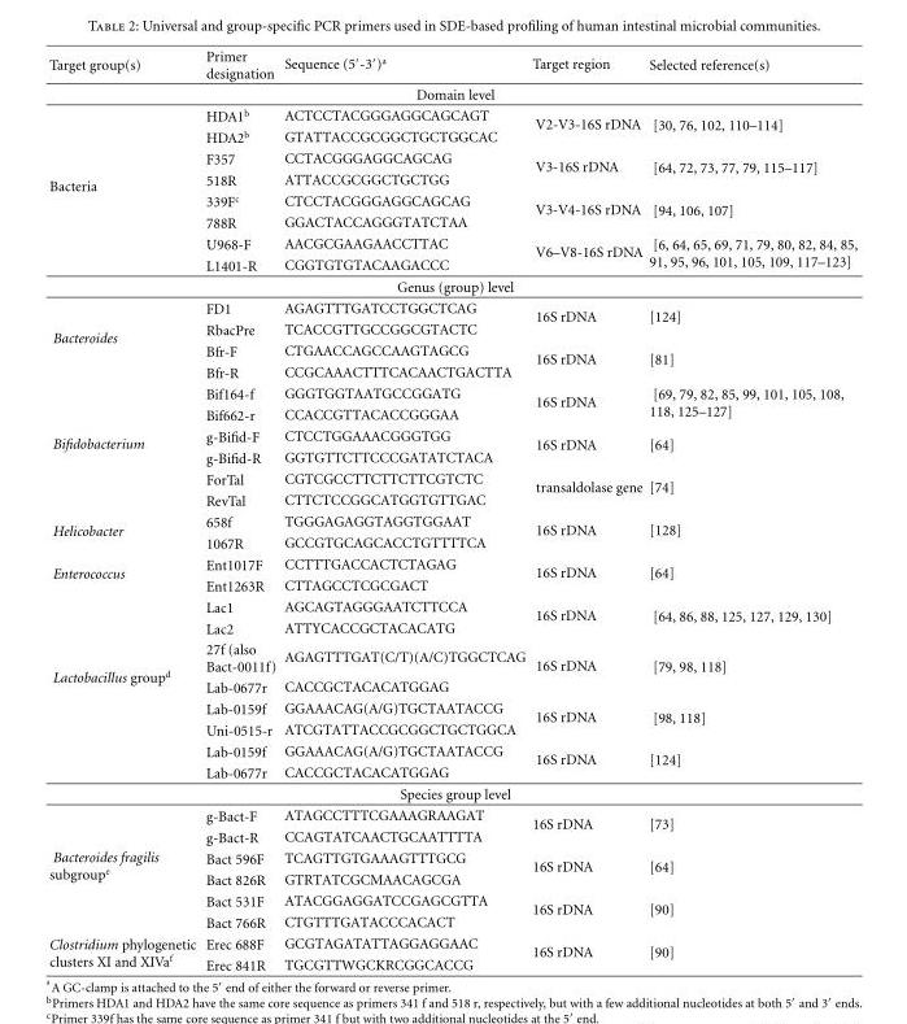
<table><thead><tr><td>Target group(s)</td><td>Primer designation</td><td>Sequence (5′-3′)<sup>a</sup></td><td>Target region</td><td>Selected reference(s)</td></tr></thead><tbody><tr><td colspan="5">Domain level</td></tr><tr><td rowspan="8">Bacteria</td><td>HDA1<sup>b</sup></td><td>ACTCCTACGGGAGGCAGCAGT</td><td rowspan="2">V2-V3-16S rDNA</td><td rowspan="2">[30, 76, 102, 110–114]</td></tr><tr><td>HDA2<sup>b</sup></td><td>GTATTACCGCGGCTGCTGGCAC</td></tr><tr><td>F357</td><td>CCTACGGGAGGCAGCAG</td><td rowspan="2">V3-16S rDNA</td><td rowspan="2">[64, 72, 73, 77, 79, 115–117]</td></tr><tr><td>518R</td><td>ATTACCGCGGCTGCTGG</td></tr><tr><td>339F<sup>c</sup></td><td>CTCCTACGGGAGGCAGCAG</td><td rowspan="2">V3-V4-16S rDNA</td><td rowspan="2">[94, 106, 107]</td></tr><tr><td>788R</td><td>GGACTACCAGGGTATCTAA</td></tr><tr><td>U968-F</td><td>AACGCGAAGAACCTTAC</td><td rowspan="2">V6–V8-16S rDNA</td><td rowspan="2">[6, 64, 65, 69, 71, 79, 80, 82, 84, 85, 91, 95, 96, 101, 105, 109, 117–123]</td></tr><tr><td>L1401-R</td><td>CGGTGTGTACAAGACCC</td></tr><tr><td colspan="5">Genus (group) level</td></tr><tr><td rowspan="4">Bacteroides</td><td>FD1</td><td>AGAGTTTGATCCTGGCTCAG</td><td rowspan="2">16S rDNA</td><td rowspan="2">[124]</td></tr><tr><td>RbacPre</td><td>TCACCGTTGCCGGCGTACTC</td></tr><tr><td>Bfr-F</td><td>CTGAACCAGCCAAGTAGCG</td><td rowspan="2">16S rDNA</td><td rowspan="2">[81]</td></tr><tr><td>Bfr-R</td><td>CCGCAAACTTTCACAACTGACTTA</td></tr><tr><td rowspan="6">Bifidobacterium</td><td>Bif164-f</td><td>GGGTGGTAATGCCGGATG</td><td rowspan="2">16S rDNA</td><td rowspan="2">[69, 79, 82, 85, 99, 101, 105, 108, 118, 125–127]</td></tr><tr><td>Bif662-r</td><td>CCACCGTTACACCGGGAA</td></tr><tr><td>g-Bifid-F</td><td>CTCCTGGAAACGGGTGG</td><td rowspan="2">16S rDNA</td><td rowspan="2">[64]</td></tr><tr><td>g-Bifid-R</td><td>GGTGTTCTTCCCGATATCTACA</td></tr><tr><td>ForTal</td><td>CGTCGCCTTCTTCTTCGTCTC</td><td rowspan="2">transaldolase gene</td><td rowspan="2">[74]</td></tr><tr><td>RevTal</td><td>CTTCTCCGGCATGGTGTTGAC</td></tr><tr><td rowspan="2">Helicobacter</td><td>658f</td><td>TGGGAGAGGTAGGTGGAAT</td><td rowspan="2">16S rDNA</td><td rowspan="2">[128]</td></tr><tr><td>1067R</td><td>GCCGTGCAGCACCTGTTTTCA</td></tr><tr><td rowspan="2">Enterococcus</td><td>Ent1017F</td><td>CCTTTGACCACTCTAGAG</td><td rowspan="2">16S rDNA</td><td rowspan="2">[64]</td></tr><tr><td>Ent1263R</td><td>CTTAGCCTCGCGACT</td></tr><tr><td rowspan="8">Lactobacillus group<sup>d</sup></td><td>Lac1</td><td>AGCAGTAGGGAATCTTCCA</td><td rowspan="2">16S rDNA</td><td rowspan="2">[64, 86, 88, 125, 127, 129, 130]</td></tr><tr><td>Lac2</td><td>ATTYCACCGCTACACATG</td></tr><tr><td>27f (also Bact-0011f)</td><td>AGAGTTTGAT(C/T)(A/C)TGGCTCAG</td><td rowspan="2">16S rDNA</td><td rowspan="2">[79, 98, 118]</td></tr><tr><td>Lab-0677r</td><td>CACCGCTACACATGGAG</td></tr><tr><td>Lab-0159f</td><td>GGAAACAG(A/G)TGCTAATACCG</td><td rowspan="2">16S rDNA</td><td rowspan="2">[98, 118]</td></tr><tr><td>Uni-0515-r</td><td>ATCGTATTACCGCGGCTGCTGGCA</td></tr><tr><td>Lab-0159f</td><td>GGAAACAG(A/G)TGCTAATACCG</td><td rowspan="2">16S rDNA</td><td rowspan="2">[124]</td></tr><tr><td>Lab-0677r</td><td>CACCGCTACACATGGAG</td></tr><tr><td colspan="5">Species group level</td></tr><tr><td rowspan="6">Bacteroides fragilis subgroup<sup>e</sup></td><td>g-Bact-F</td><td>ATAGCCTTTCGAAAGRAAGAT</td><td rowspan="2">16S rDNA</td><td rowspan="2">[73]</td></tr><tr><td>g-Bact-R</td><td>CCAGTATCAACTGCAATTTTA</td></tr><tr><td>Bact 596F</td><td>TCAGTTGTGAAAGTTTGCG</td><td rowspan="2">16S rDNA</td><td rowspan="2">[64]</td></tr><tr><td>Bact 826R</td><td>GTRTATCGCMAACAGCGA</td></tr><tr><td>Bact 531F</td><td>ATACGGAGGATCCGAGCGTTA</td><td rowspan="2">16S rDNA</td><td rowspan="2">[90]</td></tr><tr><td>Bact 766R</td><td>CTGTTTGATACCCACACT</td></tr><tr><td rowspan="2">Clostridium phylogenetic clusters XI and XIVa<sup>f</sup></td><td>Erec 688F</td><td>GCGTAGATATTAGGAGGAAC</td><td rowspan="2">16S rDNA</td><td rowspan="2">[90]</td></tr><tr><td>Erec 841R</td><td>TGCGTTWGCKRCGGCACCG</td></tr></tbody></table>